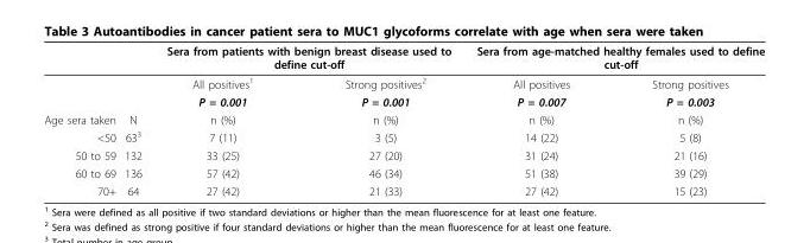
<table><thead><tr><td rowspan="2"></td><td rowspan="2"></td><td colspan="2">Sera from patients with benign breast disease used to define cut-off</td><td colspan="2">Sera from age-matched healthy females used to define cut-off</td></tr><tr><td>All positives<sup>1</sup></td><td>Strong positives<sup>2</sup></td><td>All positives</td><td>Strong positives</td></tr></thead><tbody><tr><td></td><td></td><td>P = 0.001</td><td>P = 0.001</td><td>P = 0.007</td><td>P = 0.003</td></tr><tr><td>Age sera taken</td><td>N</td><td>n (%)</td><td>n (%)</td><td>n (%)</td><td>n (%)</td></tr><tr><td>&lt;50</td><td>63<sup>3</sup></td><td>7 (11)</td><td>3 (5)</td><td>14 (22)</td><td>5 (8)</td></tr><tr><td>50 to 59</td><td>132</td><td>33 (25)</td><td>27 (20)</td><td>31 (24)</td><td>21 (16)</td></tr><tr><td>60 to 69</td><td>136</td><td>57 (42)</td><td>46 (34)</td><td>51 (38)</td><td>39 (29)</td></tr><tr><td>70+</td><td>64</td><td>27 (42)</td><td>21 (33)</td><td>27 (42)</td><td>15 (23)</td></tr></tbody></table>